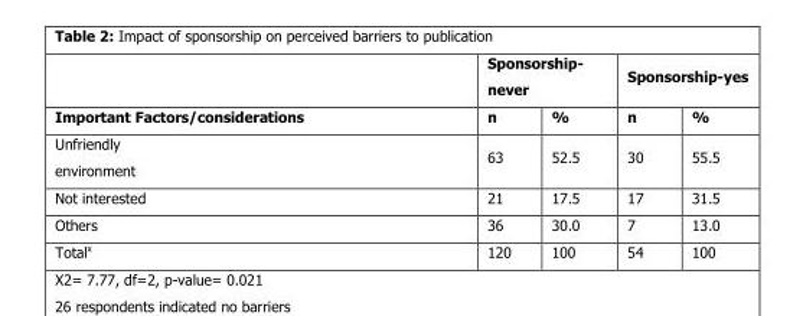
<table><thead><tr><td rowspan="2">Important Factors/considerations</td><td colspan="2">Sponsorship- never</td><td colspan="2">Sponsorship-yes</td></tr><tr><td>n</td><td>%</td><td>n</td><td>%</td></tr></thead><tbody><tr><td>Unfriendly environment</td><td>63</td><td>52.5</td><td>30</td><td>55.5</td></tr><tr><td>Not interested</td><td>21</td><td>17.5</td><td>17</td><td>31.5</td></tr><tr><td>Others</td><td>36</td><td>30.0</td><td>7</td><td>13.0</td></tr><tr><td>Total<sup>x</sup></td><td>120</td><td>100</td><td>54</td><td>100</td></tr></tbody></table>